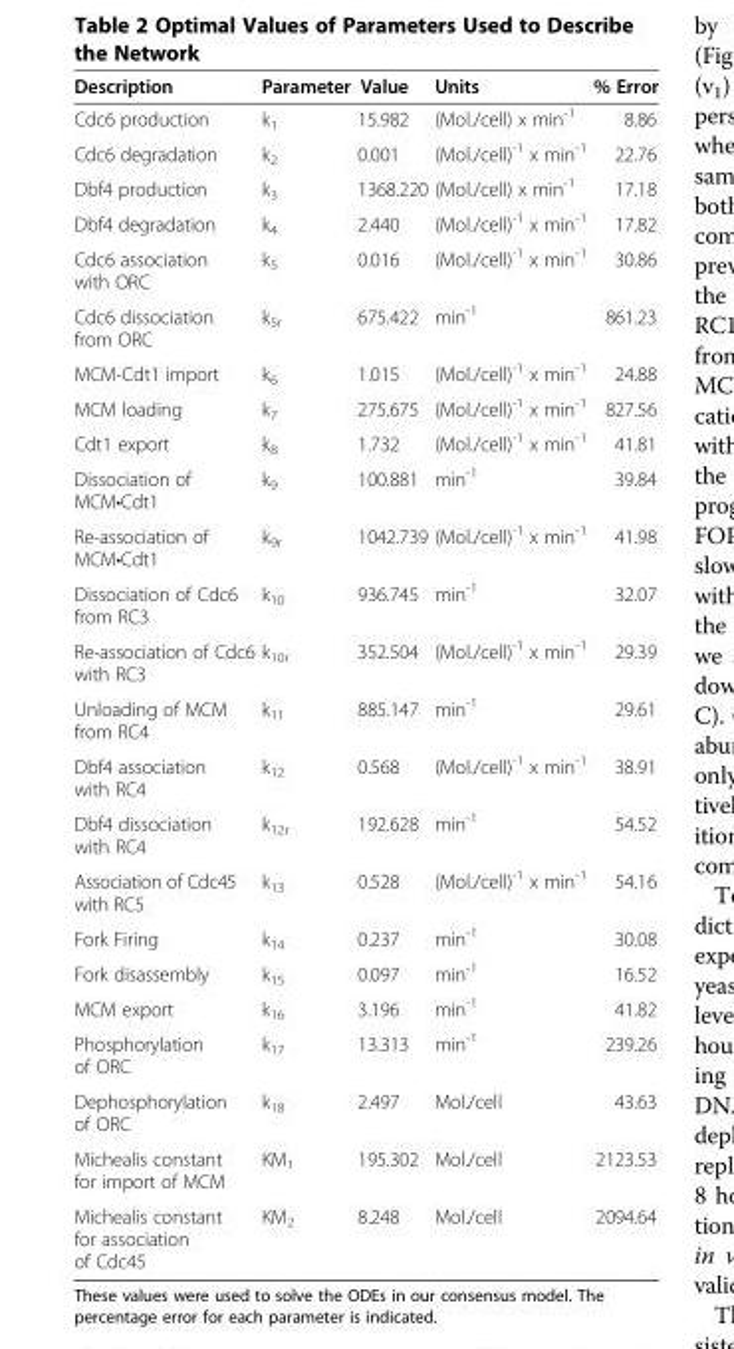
<table><thead><tr><td>Description</td><td>Parameter</td><td>Value</td><td>Units</td><td>% Error</td></tr></thead><tbody><tr><td>Cdc6 production</td><td>k<sub>1</sub></td><td>15.982</td><td>(Mol./cell) x min<sup>-1</sup></td><td>8.86</td></tr><tr><td>Cdc6 degradation</td><td>k<sub>2</sub></td><td>0.001</td><td>(Mol./cell)<sup>-1</sup> x min<sup>-1</sup></td><td>22.76</td></tr><tr><td>Dbf4 production</td><td>k<sub>3</sub></td><td>1368.220</td><td>(Mol./cell) x min<sup>-1</sup></td><td>17.18</td></tr><tr><td>Dbf4 degradation</td><td>k<sub>4</sub></td><td>2.440</td><td>(Mol./cell)<sup>-1</sup> x min<sup>-1</sup></td><td>17.82</td></tr><tr><td>Cdc6 association with ORC</td><td>k<sub>5</sub></td><td>0.016</td><td>(Mol./cell)<sup>-1</sup> x min<sup>-1</sup></td><td>30.86</td></tr><tr><td>Cdc6 dissociation from ORC</td><td>k<sub>5r</sub></td><td>675.422</td><td>min<sup>-1</sup></td><td>861.23</td></tr><tr><td>MCM-Cdt1 import</td><td>k<sub>6</sub></td><td>1.015</td><td>(Mol./cell)<sup>-1</sup> x min<sup>-1</sup></td><td>24.88</td></tr><tr><td>MCM loading</td><td>k<sub>7</sub></td><td>275.675</td><td>(Mol./cell)<sup>-1</sup> x min<sup>-1</sup></td><td>827.56</td></tr><tr><td>Cdt1 export</td><td>k<sub>8</sub></td><td>1.732</td><td>(Mol./cell)<sup>-1</sup> x min<sup>-1</sup></td><td>41.81</td></tr><tr><td>Dissociation of MCM•Cdt1</td><td>k<sub>9</sub></td><td>100.881</td><td>min<sup>-1</sup></td><td>39.84</td></tr><tr><td>Re-association of MCM•Cdt1</td><td>k<sub>9r</sub></td><td>1042.739</td><td>(Mol./cell)<sup>-1</sup> x min<sup>-1</sup></td><td>41.98</td></tr><tr><td>Dissociation of Cdc6 from RC3</td><td>k<sub>10</sub></td><td>936.745</td><td>min<sup>-1</sup></td><td>32.07</td></tr><tr><td>Re-association of Cdc6 with RC3</td><td>k<sub>10r</sub></td><td>352.504</td><td>(Mol./cell)<sup>-1</sup> x min<sup>-1</sup></td><td>29.39</td></tr><tr><td>Unloading of MCM from RC4</td><td>k<sub>11</sub></td><td>885.147</td><td>min<sup>-1</sup></td><td>29.61</td></tr><tr><td>Dbf4 association with RC4</td><td>k<sub>12</sub></td><td>0.568</td><td>(Mol./cell)<sup>-1</sup> x min<sup>-1</sup></td><td>38.91</td></tr><tr><td>Dbf4 dissociation with RC4</td><td>k<sub>12r</sub></td><td>192.628</td><td>min<sup>-1</sup></td><td>54.52</td></tr><tr><td>Association of Cdc45 with RC5</td><td>k<sub>13</sub></td><td>0.528</td><td>(Mol./cell)<sup>-1</sup> x min<sup>-1</sup></td><td>54.16</td></tr><tr><td>Fork Firing</td><td>k<sub>14</sub></td><td>0.237</td><td>min<sup>-1</sup></td><td>30.08</td></tr><tr><td>Fork disassembly</td><td>k<sub>15</sub></td><td>0.097</td><td>min<sup>-1</sup></td><td>16.52</td></tr><tr><td>MCM export</td><td>k<sub>16</sub></td><td>3.196</td><td>min<sup>-1</sup></td><td>41.82</td></tr><tr><td>Phosphorylation of ORC</td><td>k<sub>17</sub></td><td>13.313</td><td>min<sup>-1</sup></td><td>239.26</td></tr><tr><td>Dephosphorylation of ORC</td><td>k<sub>18</sub></td><td>2.497</td><td>Mol./cell</td><td>43.63</td></tr><tr><td>Michealis constant for import of MCM</td><td>KM<sub>1</sub></td><td>195.302</td><td>Mol./cell</td><td>2123.53</td></tr><tr><td>Michealis constant for association of Cdc45</td><td>KM<sub>2</sub></td><td>8.248</td><td>Mol./cell</td><td>2094.64</td></tr></tbody></table>